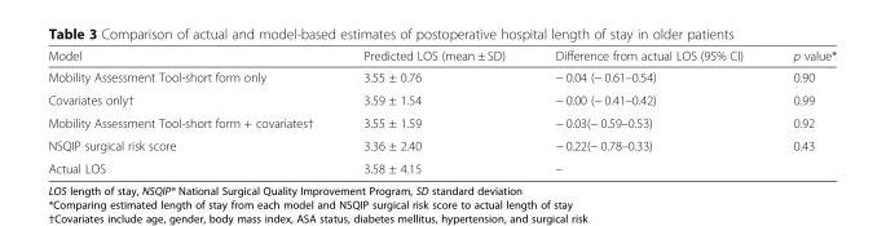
<table><thead><tr><td>Model</td><td>Predicted LOS (mean ± SD)</td><td>Difference from actual LOS (95% CI)</td><td>p value*</td></tr></thead><tbody><tr><td>Mobility Assessment Tool-short form only</td><td>3.55 ± 0.76</td><td>− 0.04 (− 0.61–0.54)</td><td>0.90</td></tr><tr><td>Covariates only†</td><td>3.59 ± 1.54</td><td>− 0.00 (− 0.41–0.42)</td><td>0.99</td></tr><tr><td>Mobility Assessment Tool-short form + covariates†</td><td>3.55 ± 1.59</td><td>− 0.03(− 0.59–0.53)</td><td>0.92</td></tr><tr><td>NSQIP surgical risk score</td><td>3.36 ± 2.40</td><td>− 0.22(− 0.78–0.33)</td><td>0.43</td></tr><tr><td>Actual LOS</td><td>3.58 ± 4.15</td><td>–</td><td></td></tr></tbody></table>